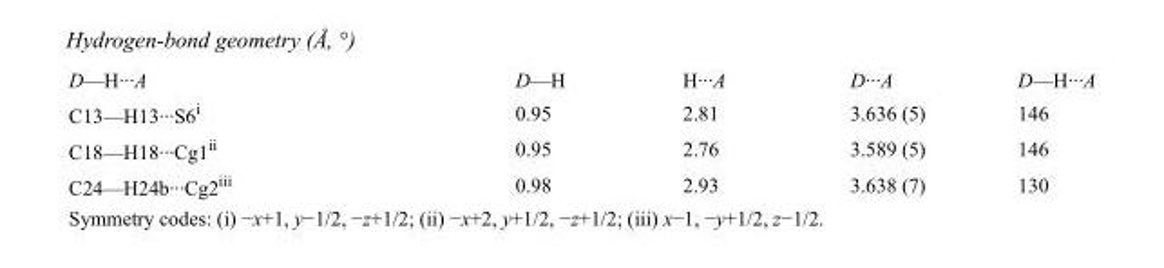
<table><tbody><tr><td>D—H···A</td><td>D—H</td><td>H···A</td><td>D···A</td><td>D—H···A</td></tr><tr><td>C13—H13···S6<sup>i</sup></td><td>0.95</td><td>2.81</td><td>3.636 (5)</td><td>146</td></tr><tr><td>C18—H18···Cg1<sup>ii</sup></td><td>0.95</td><td>2.76</td><td>3.589 (5)</td><td>146</td></tr><tr><td>C24—H24b···Cg2<sup>iii</sup></td><td>0.98</td><td>2.93</td><td>3.638 (7)</td><td>130</td></tr></tbody></table>